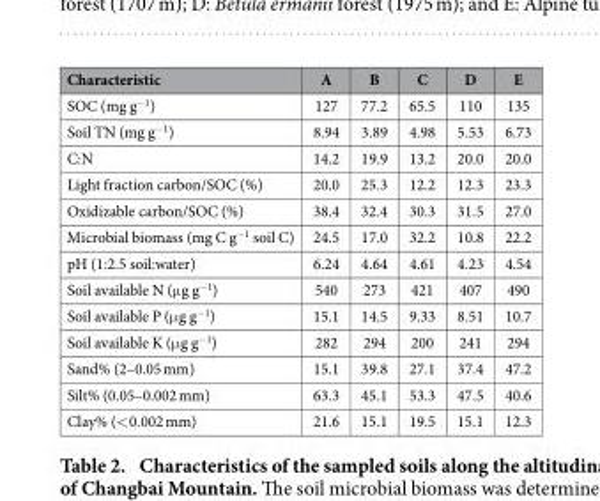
<table><thead><tr><td>Characteristic</td><td>A</td><td>B</td><td>C</td><td>D</td><td>E</td></tr></thead><tbody><tr><td>SOC (mg g<sup>−1</sup>)</td><td>127</td><td>77.2</td><td>65.5</td><td>110</td><td>135</td></tr><tr><td>Soil TN (mg g<sup>−1</sup>)</td><td>8.94</td><td>3.89</td><td>4.98</td><td>5.53</td><td>6.73</td></tr><tr><td>C:N</td><td>14.2</td><td>19.9</td><td>13.2</td><td>20.0</td><td>20.0</td></tr><tr><td>Light fraction carbon/SOC (%)</td><td>20.0</td><td>25.3</td><td>12.2</td><td>12.3</td><td>23.3</td></tr><tr><td>Oxidizable carbon/SOC (%)</td><td>38.4</td><td>32.4</td><td>30.3</td><td>31.5</td><td>27.0</td></tr><tr><td>Microbial biomass (mg C g<sup>−1</sup> soil C)</td><td>24.5</td><td>17.0</td><td>32.2</td><td>10.8</td><td>22.2</td></tr><tr><td>pH (1:2.5 soil:water)</td><td>6.24</td><td>4.64</td><td>4.61</td><td>4.23</td><td>4.54</td></tr><tr><td>Soil available N (μ g g<sup>−1</sup>)</td><td>540</td><td>273</td><td>421</td><td>407</td><td>490</td></tr><tr><td>Soil available P (μ g g<sup>−1</sup>)</td><td>15.1</td><td>14.5</td><td>9.33</td><td>8.51</td><td>10.7</td></tr><tr><td>Soil available K (μ g g<sup>−1</sup>)</td><td>282</td><td>294</td><td>200</td><td>241</td><td>294</td></tr><tr><td>Sand% (2–0.05 mm)</td><td>15.1</td><td>39.8</td><td>27.1</td><td>37.4</td><td>47.2</td></tr><tr><td>Silt% (0.05–0.002 mm)</td><td>63.3</td><td>45.1</td><td>53.3</td><td>47.5</td><td>40.6</td></tr><tr><td>Clay% (&lt; 0.002 mm)</td><td>21.6</td><td>15.1</td><td>19.5</td><td>15.1</td><td>12.3</td></tr></tbody></table>